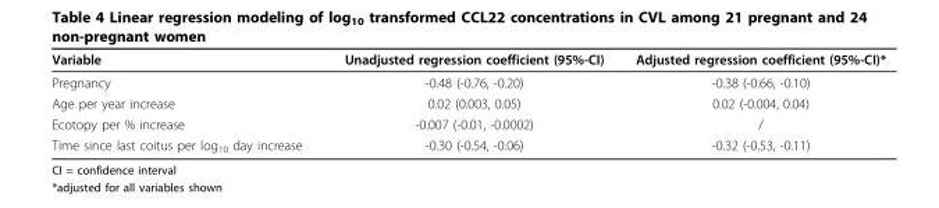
<table><thead><tr><td>Variable</td><td>Unadjusted regression coefficient (95%-CI)</td><td>Adjusted regression coefficient (95%-CI)*</td></tr></thead><tbody><tr><td>Pregnancy</td><td>-0.48 (-0.76, -0.20)</td><td>-0.38 (-0.66, -0.10)</td></tr><tr><td>Age per year increase</td><td>0.02 (0.003, 0.05)</td><td>0.02 (-0.004, 0.04)</td></tr><tr><td>Ecotopy per % increase</td><td>-0.007 (-0.01, -0.0002)</td><td>/</td></tr><tr><td>Time since last coitus per log<sub>10</sub> day increase</td><td>-0.30 (-0.54, -0.06)</td><td>-0.32 (-0.53, -0.11)</td></tr></tbody></table>